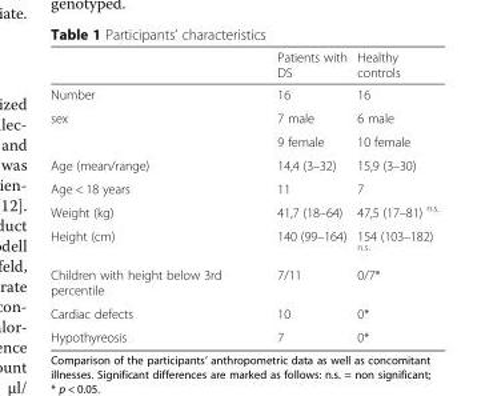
<table><thead><tr><td></td><td>Patients with DS</td><td>Healthy controls</td></tr></thead><tbody><tr><td>Number</td><td>16</td><td>16</td></tr><tr><td rowspan="2">sex</td><td>7 male</td><td>6 male</td></tr><tr><td>9 female</td><td>10 female</td></tr><tr><td>Age (mean/range)</td><td>14,4 (3–32)</td><td>15,9 (3–30)</td></tr><tr><td>Age &lt; 18 years</td><td>11</td><td>7</td></tr><tr><td>Weight (kg)</td><td>41,7 (18–64)</td><td>47,5 (17–81) <sup>n.s.</sup></td></tr><tr><td>Height (cm)</td><td>140 (99–164)</td><td>154 (103–182) <sup>n.s.</sup></td></tr><tr><td>Children with height below 3rd percentile</td><td>7/11</td><td>0/7*</td></tr><tr><td>Cardiac defects</td><td>10</td><td>0*</td></tr><tr><td>Hypothyreosis</td><td>7</td><td>0*</td></tr></tbody></table>